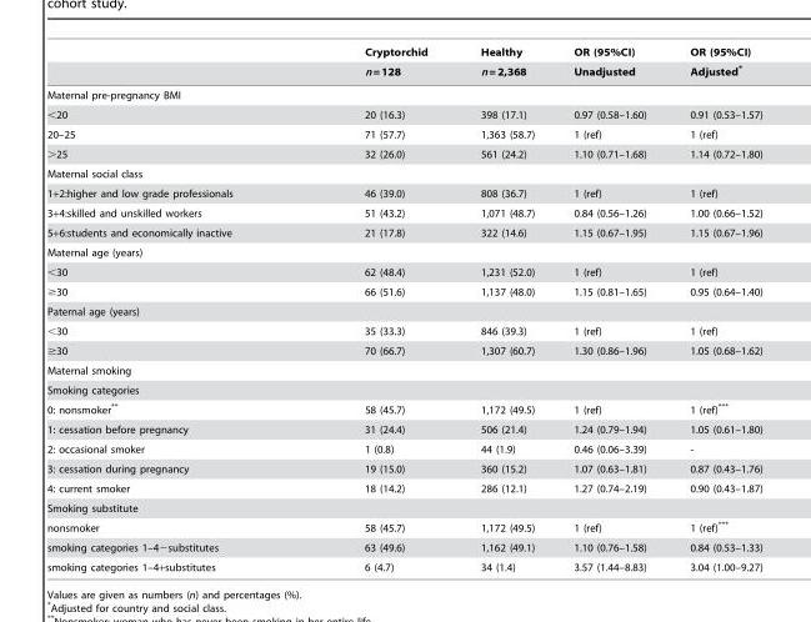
<table><thead><tr><td rowspan="2"></td><td rowspan="2">Cryptorchid n = 128</td><td rowspan="2">Healthy n = 2,368</td><td rowspan="2">OR (95%CI) Unadjusted</td><td rowspan="2">OR (95%CI) Adjusted*</td></tr><tr></tr></thead><tbody><tr><td colspan="5">Maternal pre-pregnancy BMI</td></tr><tr><td>&lt;20</td><td>20 (16.3)</td><td>398 (17.1)</td><td>0.97 (0.58–1.60)</td><td>0.91 (0.53–1.57)</td></tr><tr><td>20–25</td><td>71 (57.7)</td><td>1,363 (58.7)</td><td>1 (ref)</td><td>1 (ref)</td></tr><tr><td>&gt;25</td><td>32 (26.0)</td><td>561 (24.2)</td><td>1.10 (0.71–1.68)</td><td>1.14 (0.72–1.80)</td></tr><tr><td colspan="5">Maternal social class</td></tr><tr><td>1+2:higher and low grade professionals</td><td>46 (39.0)</td><td>808 (36.7)</td><td>1 (ref)</td><td>1 (ref)</td></tr><tr><td>3+4:skilled and unskilled workers</td><td>51 (43.2)</td><td>1,071 (48.7)</td><td>0.84 (0.56–1.26)</td><td>1.00 (0.66–1.52)</td></tr><tr><td>5+6:students and economically inactive</td><td>21 (17.8)</td><td>322 (14.6)</td><td>1.15 (0.67–1.95)</td><td>1.15 (0.67–1.96)</td></tr><tr><td colspan="5">Maternal age (years)</td></tr><tr><td>&lt;30</td><td>62 (48.4)</td><td>1,231 (52.0)</td><td>1 (ref)</td><td>1 (ref)</td></tr><tr><td>≥30</td><td>66 (51.6)</td><td>1,137 (48.0)</td><td>1.15 (0.81–1.65)</td><td>0.95 (0.64–1.40)</td></tr><tr><td colspan="5">Paternal age (years)</td></tr><tr><td>&lt;30</td><td>35 (33.3)</td><td>846 (39.3)</td><td>1 (ref)</td><td>1 (ref)</td></tr><tr><td>≥30</td><td>70 (66.7)</td><td>1,307 (60.7)</td><td>1.30 (0.86–1.96)</td><td>1.05 (0.68–1.62)</td></tr><tr><td colspan="5">Maternal smoking</td></tr><tr><td colspan="5">Smoking categories</td></tr><tr><td>0: nonsmoker**</td><td>58 (45.7)</td><td>1,172 (49.5)</td><td>1 (ref)</td><td>1 (ref)***</td></tr><tr><td>1: cessation before pregnancy</td><td>31 (24.4)</td><td>506 (21.4)</td><td>1.24 (0.79–1.94)</td><td>1.05 (0.61–1.80)</td></tr><tr><td>2: occasional smoker</td><td>1 (0.8)</td><td>44 (1.9)</td><td>0.46 (0.06–3.39)</td><td>-</td></tr><tr><td>3: cessation during pregnancy</td><td>19 (15.0)</td><td>360 (15.2)</td><td>1.07 (0.63–1.81)</td><td>0.87 (0.43–1.76)</td></tr><tr><td>4: current smoker</td><td>18 (14.2)</td><td>286 (12.1)</td><td>1.27 (0.74–2.19)</td><td>0.90 (0.43–1.87)</td></tr><tr><td colspan="5">Smoking substitute</td></tr><tr><td>nonsmoker</td><td>58 (45.7)</td><td>1,172 (49.5)</td><td>1 (ref)</td><td>1 (ref)***</td></tr><tr><td>smoking categories 1–4−substitutes</td><td>63 (49.6)</td><td>1,162 (49.1)</td><td>1.10 (0.76–1.58)</td><td>0.84 (0.53–1.33)</td></tr><tr><td>smoking categories 1–4+substitutes</td><td>6 (4.7)</td><td>34 (1.4)</td><td>3.57 (1.44–8.83)</td><td>3.04 (1.00–9.27)</td></tr></tbody></table>